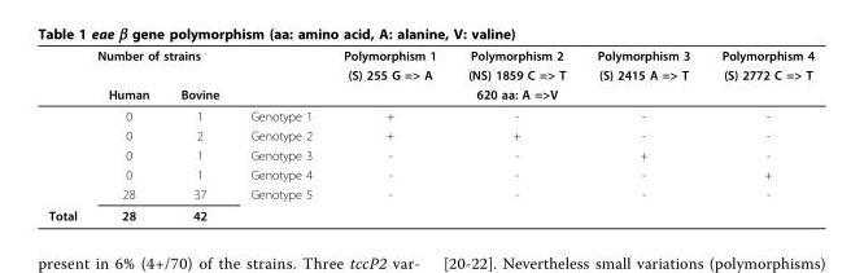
<table><thead><tr><td rowspan="3"></td><td colspan="3">Number of strains</td><td rowspan="3">Polymorphism 1 (S) 255 G =&gt; A</td><td rowspan="3">Polymorphism 2 (NS) 1859 C =&gt; T 620 aa: A =&gt;V</td><td rowspan="3">Polymorphism 3 (S) 2415 A =&gt; T</td><td rowspan="3">Polymorphism 4 (S) 2772 C =&gt; T</td></tr><tr><td rowspan="2">Human</td><td rowspan="2">Bovine</td><td rowspan="2"></td></tr><tr></tr></thead><tbody><tr><td></td><td>0</td><td>1</td><td>Genotype 1</td><td>+</td><td>-</td><td>-</td><td>-</td></tr><tr><td></td><td>0</td><td>2</td><td>Genotype 2</td><td>+</td><td>+</td><td>-</td><td>-</td></tr><tr><td></td><td>0</td><td>1</td><td>Genotype 3</td><td>-</td><td>-</td><td>+</td><td>-</td></tr><tr><td></td><td>0</td><td>1</td><td>Genotype 4</td><td>-</td><td>-</td><td>-</td><td>+</td></tr><tr><td></td><td>28</td><td>37</td><td>Genotype 5</td><td>-</td><td>-</td><td>-</td><td>-</td></tr><tr><td>Total</td><td>28</td><td>42</td><td></td><td></td><td></td><td></td><td></td></tr></tbody></table>